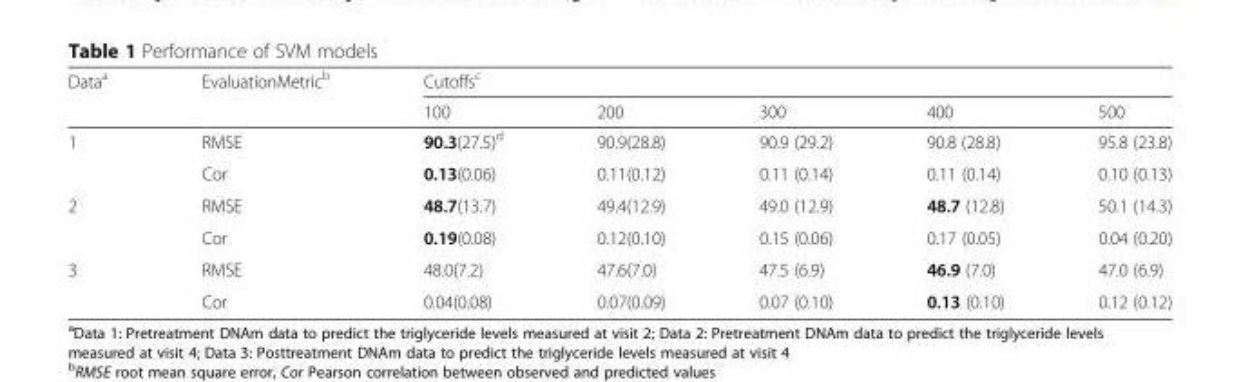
<table><thead><tr><td rowspan="2">Data<sup>a</sup></td><td rowspan="2">EvaluationMetric<sup>b</sup></td><td colspan="5">Cutoffs<sup>c</sup></td></tr><tr><td>100</td><td>200</td><td>300</td><td>400</td><td>500</td></tr></thead><tbody><tr><td rowspan="2">1</td><td>RMSE</td><td>90.3(27.5)<sup>d</sup></td><td>90.9(28.8)</td><td>90.9 (29.2)</td><td>90.8 (28.8)</td><td>95.8 (23.8)</td></tr><tr><td>Cor</td><td>0.13(0.06)</td><td>0.11(0.12)</td><td>0.11 (0.14)</td><td>0.11 (0.14)</td><td>0.10 (0.13)</td></tr><tr><td rowspan="2">2</td><td>RMSE</td><td>48.7(13.7)</td><td>49.4(12.9)</td><td>49.0 (12.9)</td><td>48.7 (12.8)</td><td>50.1 (14.3)</td></tr><tr><td>Cor</td><td>0.19(0.08)</td><td>0.12(0.10)</td><td>0.15 (0.06)</td><td>0.17 (0.05)</td><td>0.04 (0.20)</td></tr><tr><td rowspan="2">3</td><td>RMSE</td><td>48.0(7.2)</td><td>47.6(7.0)</td><td>47.5 (6.9)</td><td>46.9 (7.0)</td><td>47.0 (6.9)</td></tr><tr><td>Cor</td><td>0.04(0.08)</td><td>0.07(0.09)</td><td>0.07 (0.10)</td><td>0.13 (0.10)</td><td>0.12 (0.12)</td></tr></tbody></table>